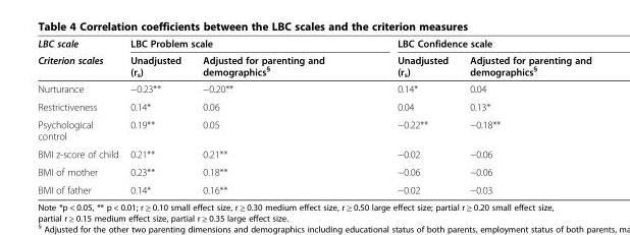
<table><thead><tr><td rowspan="2">LBC scale Criterion scales</td><td colspan="2">LBC Problem scale</td><td colspan="2">LBC Confidence scale</td></tr><tr><td>Unadjusted (r<sub>s</sub>)</td><td>Adjusted for parenting and demographics§</td><td>Unadjusted (r<sub>s</sub>)</td><td>Adjusted for parenting and demographics§</td></tr></thead><tbody><tr><td>Nurturance</td><td>−0.23**</td><td>−0.20**</td><td>0.14*</td><td>0.04</td></tr><tr><td>Restrictiveness</td><td>0.14*</td><td>0.06</td><td>0.04</td><td>0.13*</td></tr><tr><td>Psychological control</td><td>0.19**</td><td>0.05</td><td>−0.22**</td><td>−0.18**</td></tr><tr><td>BMI z-score of child</td><td>0.21**</td><td>0.21**</td><td>−0.02</td><td>−0.06</td></tr><tr><td>BMI of mother</td><td>0.23**</td><td>0.18**</td><td>−0.06</td><td>−0.06</td></tr><tr><td>BMI of father</td><td>0.14*</td><td>0.16**</td><td>−0.02</td><td>−0.03</td></tr></tbody></table>